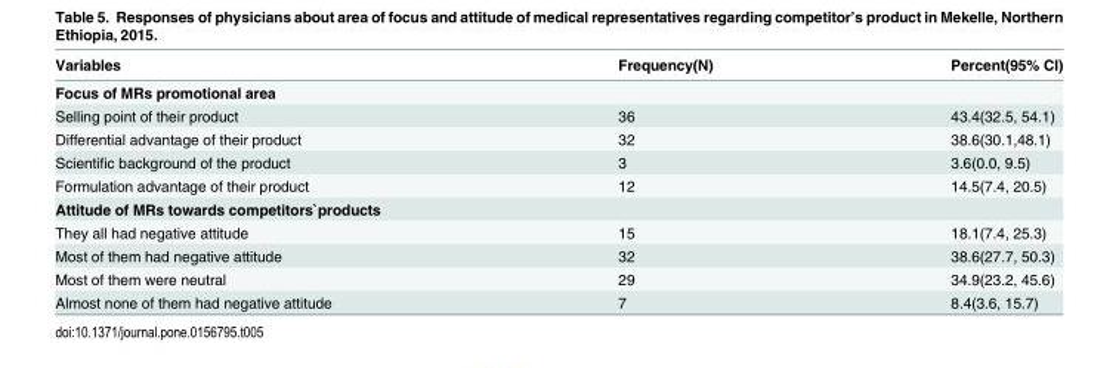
<table><thead><tr><td>Variables</td><td>Frequency(N)</td><td>Percent(95% CI)</td></tr></thead><tbody><tr><td colspan="3">Focus of MRs promotional area</td></tr><tr><td>Selling point of their product</td><td>36</td><td>43.4(32.5, 54.1)</td></tr><tr><td>Differential advantage of their product</td><td>32</td><td>38.6(30.1,48.1)</td></tr><tr><td>Scientific background of the product</td><td>3</td><td>3.6(0.0, 9.5)</td></tr><tr><td>Formulation advantage of their product</td><td>12</td><td>14.5(7.4, 20.5)</td></tr><tr><td colspan="3">Attitude of MRs towards competitors`products</td></tr><tr><td>They all had negative attitude</td><td>15</td><td>18.1(7.4, 25.3)</td></tr><tr><td>Most of them had negative attitude</td><td>32</td><td>38.6(27.7, 50.3)</td></tr><tr><td>Most of them were neutral</td><td>29</td><td>34.9(23.2, 45.6)</td></tr><tr><td>Almost none of them had negative attitude</td><td>7</td><td>8.4(3.6, 15.7)</td></tr></tbody></table>